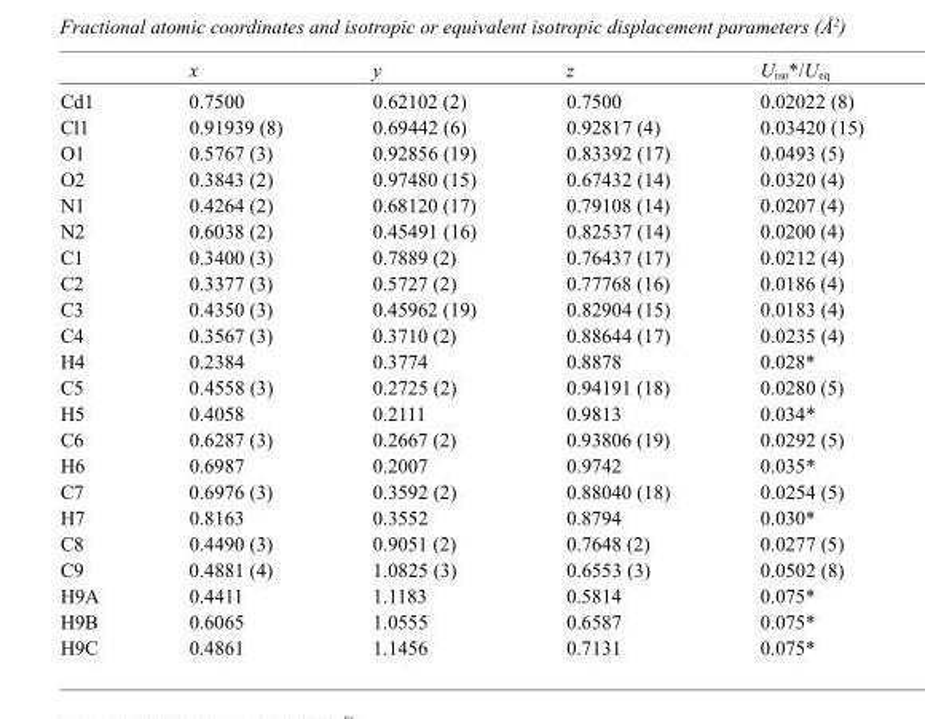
<table><thead><tr><td></td><td>x</td><td>y</td><td>z</td><td>U<sub>iso</sub>*/U<sub>eq</sub></td></tr></thead><tbody><tr><td>Cd1</td><td>0.7500</td><td>0.62102 (2)</td><td>0.7500</td><td>0.02022 (8)</td></tr><tr><td>Cl1</td><td>0.91939 (8)</td><td>0.69442 (6)</td><td>0.92817 (4)</td><td>0.03420 (15)</td></tr><tr><td>O1</td><td>0.5767 (3)</td><td>0.92856 (19)</td><td>0.83392 (17)</td><td>0.0493 (5)</td></tr><tr><td>O2</td><td>0.3843 (2)</td><td>0.97480 (15)</td><td>0.67432 (14)</td><td>0.0320 (4)</td></tr><tr><td>N1</td><td>0.4264 (2)</td><td>0.68120 (17)</td><td>0.79108 (14)</td><td>0.0207 (4)</td></tr><tr><td>N2</td><td>0.6038 (2)</td><td>0.45491 (16)</td><td>0.82537 (14)</td><td>0.0200 (4)</td></tr><tr><td>C1</td><td>0.3400 (3)</td><td>0.7889 (2)</td><td>0.76437 (17)</td><td>0.0212 (4)</td></tr><tr><td>C2</td><td>0.3377 (3)</td><td>0.5727 (2)</td><td>0.77768 (16)</td><td>0.0186 (4)</td></tr><tr><td>C3</td><td>0.4350 (3)</td><td>0.45962 (19)</td><td>0.82904 (15)</td><td>0.0183 (4)</td></tr><tr><td>C4</td><td>0.3567 (3)</td><td>0.3710 (2)</td><td>0.88644 (17)</td><td>0.0235 (4)</td></tr><tr><td>H4</td><td>0.2384</td><td>0.3774</td><td>0.8878</td><td>0.028*</td></tr><tr><td>C5</td><td>0.4558 (3)</td><td>0.2725 (2)</td><td>0.94191 (18)</td><td>0.0280 (5)</td></tr><tr><td>H5</td><td>0.4058</td><td>0.2111</td><td>0.9813</td><td>0.034*</td></tr><tr><td>C6</td><td>0.6287 (3)</td><td>0.2667 (2)</td><td>0.93806 (19)</td><td>0.0292 (5)</td></tr><tr><td>H6</td><td>0.6987</td><td>0.2007</td><td>0.9742</td><td>0.035*</td></tr><tr><td>C7</td><td>0.6976 (3)</td><td>0.3592 (2)</td><td>0.88040 (18)</td><td>0.0254 (5)</td></tr><tr><td>H7</td><td>0.8163</td><td>0.3552</td><td>0.8794</td><td>0.030*</td></tr><tr><td>C8</td><td>0.4490 (3)</td><td>0.9051 (2)</td><td>0.7648 (2)</td><td>0.0277 (5)</td></tr><tr><td>C9</td><td>0.4881 (4)</td><td>1.0825 (3)</td><td>0.6553 (3)</td><td>0.0502 (8)</td></tr><tr><td>H9A</td><td>0.4411</td><td>1.1183</td><td>0.5814</td><td>0.075*</td></tr><tr><td>H9B</td><td>0.6065</td><td>1.0555</td><td>0.6587</td><td>0.075*</td></tr><tr><td>H9C</td><td>0.4861</td><td>1.1456</td><td>0.7131</td><td>0.075*</td></tr></tbody></table>